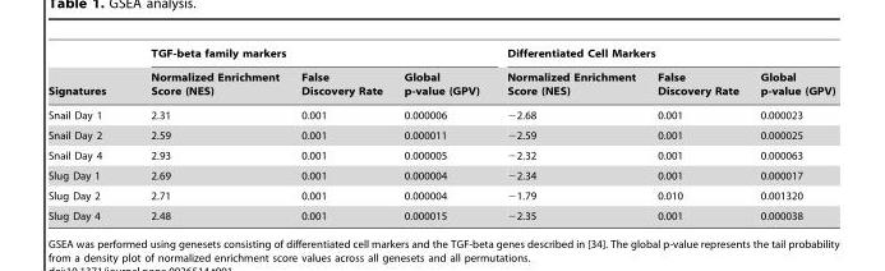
<table><thead><tr><td rowspan="2">Signatures</td><td colspan="3">TGF-beta family markers</td><td colspan="3">Differentiated Cell Markers</td></tr><tr><td>Normalized Enrichment Score (NES)</td><td>False Discovery Rate</td><td>Global p-value (GPV)</td><td>Normalized Enrichment Score (NES)</td><td>False Discovery Rate</td><td>Global p-value (GPV)</td></tr></thead><tbody><tr><td>Snail Day 1</td><td>2.31</td><td>0.001</td><td>0.000006</td><td>−2.68</td><td>0.001</td><td>0.000023</td></tr><tr><td>Snail Day 2</td><td>2.59</td><td>0.001</td><td>0.000011</td><td>−2.59</td><td>0.001</td><td>0.000025</td></tr><tr><td>Snail Day 4</td><td>2.93</td><td>0.001</td><td>0.000005</td><td>−2.32</td><td>0.001</td><td>0.000063</td></tr><tr><td>Slug Day 1</td><td>2.69</td><td>0.001</td><td>0.000004</td><td>−2.34</td><td>0.001</td><td>0.000017</td></tr><tr><td>Slug Day 2</td><td>2.71</td><td>0.001</td><td>0.000004</td><td>−1.79</td><td>0.010</td><td>0.001320</td></tr><tr><td>Slug Day 4</td><td>2.48</td><td>0.001</td><td>0.000015</td><td>−2.35</td><td>0.001</td><td>0.000038</td></tr></tbody></table>